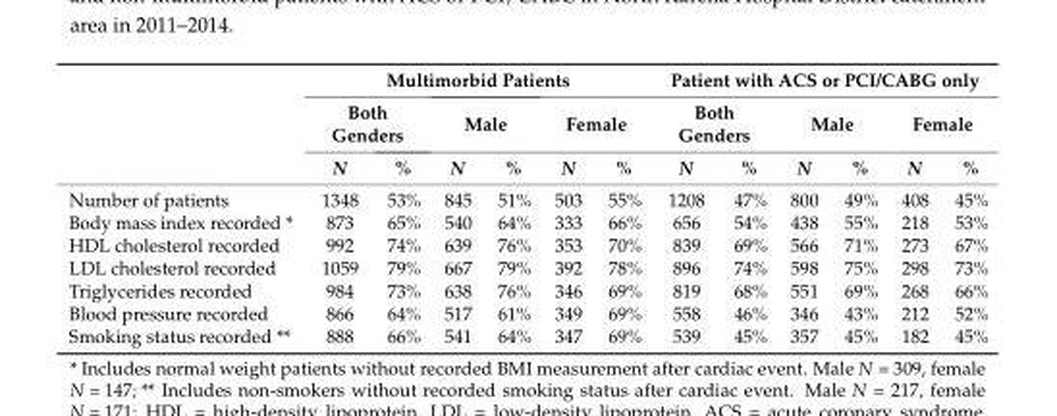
<table><thead><tr><td rowspan="3"></td><td colspan="6">Multimorbid Patients</td><td colspan="6">Patient with ACS or PCI/CABG only</td></tr><tr><td colspan="2">Both Genders</td><td colspan="2">Male</td><td colspan="2">Female</td><td colspan="2">Both Genders</td><td colspan="2">Male</td><td colspan="2">Female</td></tr><tr><td>N</td><td>%</td><td>N</td><td>%</td><td>N</td><td>%</td><td>N</td><td>%</td><td>N</td><td>%</td><td>N</td><td>%</td></tr></thead><tbody><tr><td>Number of patients</td><td>1348</td><td>53%</td><td>845</td><td>51%</td><td>503</td><td>55%</td><td>1208</td><td>47%</td><td>800</td><td>49%</td><td>408</td><td>45%</td></tr><tr><td>Body mass index recorded *</td><td>873</td><td>65%</td><td>540</td><td>64%</td><td>333</td><td>66%</td><td>656</td><td>54%</td><td>438</td><td>55%</td><td>218</td><td>53%</td></tr><tr><td>HDL cholesterol recorded</td><td>992</td><td>74%</td><td>639</td><td>76%</td><td>353</td><td>70%</td><td>839</td><td>69%</td><td>566</td><td>71%</td><td>273</td><td>67%</td></tr><tr><td>LDL cholesterol recorded</td><td>1059</td><td>79%</td><td>667</td><td>79%</td><td>392</td><td>78%</td><td>896</td><td>74%</td><td>598</td><td>75%</td><td>298</td><td>73%</td></tr><tr><td>Triglycerides recorded</td><td>984</td><td>73%</td><td>638</td><td>76%</td><td>346</td><td>69%</td><td>819</td><td>68%</td><td>551</td><td>69%</td><td>268</td><td>66%</td></tr><tr><td>Blood pressure recorded</td><td>866</td><td>64%</td><td>517</td><td>61%</td><td>349</td><td>69%</td><td>558</td><td>46%</td><td>346</td><td>43%</td><td>212</td><td>52%</td></tr><tr><td>Smoking status recorded **</td><td>888</td><td>66%</td><td>541</td><td>64%</td><td>347</td><td>69%</td><td>539</td><td>45%</td><td>357</td><td>45%</td><td>182</td><td>45%</td></tr></tbody></table>